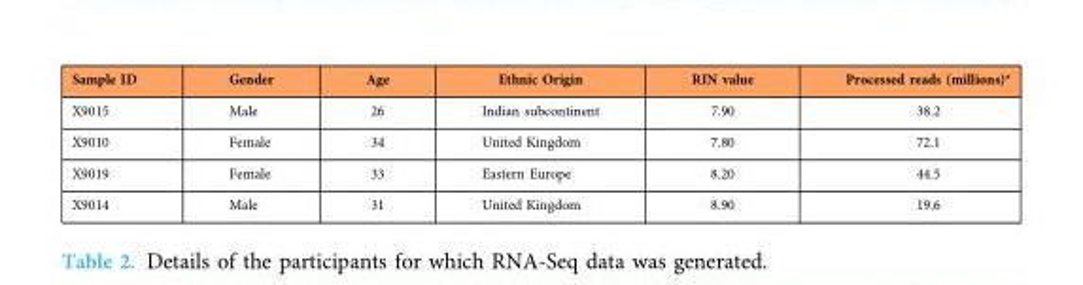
<table><thead><tr><td>Sample ID</td><td>Gender</td><td>Age</td><td>Ethnic Origin</td><td>RIN value</td><td>Processed reads (millions)*</td></tr></thead><tbody><tr><td>X9015</td><td>Male</td><td>26</td><td>Indian subcontinent</td><td>7.90</td><td>38.2</td></tr><tr><td>X9010</td><td>Female</td><td>34</td><td>United Kingdom</td><td>7.80</td><td>72.1</td></tr><tr><td>X9019</td><td>Female</td><td>33</td><td>Eastern Europe</td><td>8.20</td><td>44.5</td></tr><tr><td>X9014</td><td>Male</td><td>31</td><td>United Kingdom</td><td>8.90</td><td>19.6</td></tr></tbody></table>